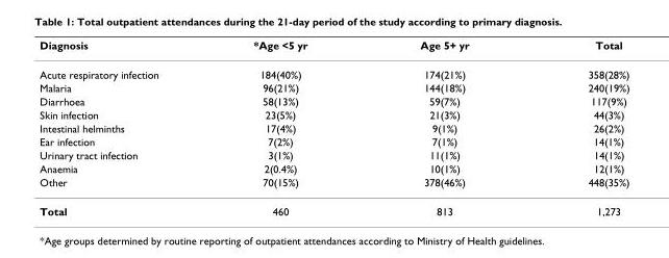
<table><thead><tr><td>Diagnosis</td><td>*Age &lt;5 yr</td><td>Age 5+ yr</td><td>Total</td></tr></thead><tbody><tr><td>Acute respiratory infection</td><td>184(40%)</td><td>174(21%)</td><td>358(28%)</td></tr><tr><td>Malaria</td><td>96(21%)</td><td>144(18%)</td><td>240(19%)</td></tr><tr><td>Diarrhoea</td><td>58(13%)</td><td>59(7%)</td><td>117(9%)</td></tr><tr><td>Skin infection</td><td>23(5%)</td><td>21(3%)</td><td>44(3%)</td></tr><tr><td>Intestinal helminths</td><td>17(4%)</td><td>9(1%)</td><td>26(2%)</td></tr><tr><td>Ear infection</td><td>7(2%)</td><td>7(1%)</td><td>14(1%)</td></tr><tr><td>Urinary tract infection</td><td>3(1%)</td><td>11(1%)</td><td>14(1%)</td></tr><tr><td>Anaemia</td><td>2(0.4%)</td><td>10(1%)</td><td>12(1%)</td></tr><tr><td>Other</td><td>70(15%)</td><td>378(46%)</td><td>448(35%)</td></tr><tr><td>Total</td><td>460</td><td>813</td><td>1,273</td></tr></tbody></table>